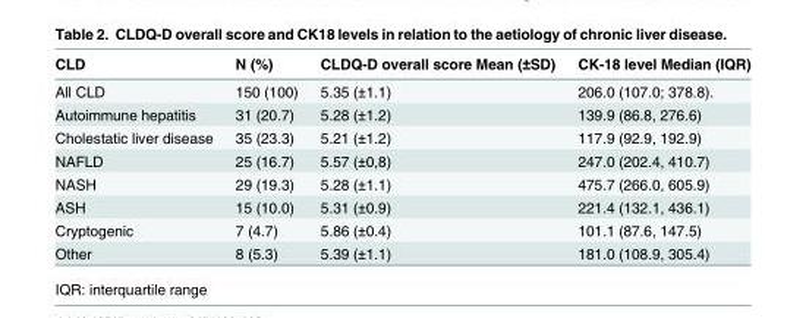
<table><thead><tr><td>CLD</td><td>N (%)</td><td>CLDQ-D overall score Mean (±SD)</td><td>CK-18 level Median (IQR)</td></tr></thead><tbody><tr><td>All CLD</td><td>150 (100)</td><td>5.35 (±1.1)</td><td>206.0 (107.0; 378.8).</td></tr><tr><td>Autoimmune hepatitis</td><td>31 (20.7)</td><td>5.28 (±1.2)</td><td>139.9 (86.8, 276.6)</td></tr><tr><td>Cholestatic liver disease</td><td>35 (23.3)</td><td>5.21 (±1.2)</td><td>117.9 (92.9, 192.9)</td></tr><tr><td>NAFLD</td><td>25 (16.7)</td><td>5.57 (±0,8)</td><td>247.0 (202.4, 410.7)</td></tr><tr><td>NASH</td><td>29 (19.3)</td><td>5.28 (±1.1)</td><td>475.7 (266.0, 605.9)</td></tr><tr><td>ASH</td><td>15 (10.0)</td><td>5.31 (±0.9)</td><td>221.4 (132.1, 436.1)</td></tr><tr><td>Cryptogenic</td><td>7 (4.7)</td><td>5.86 (±0.4)</td><td>101.1 (87.6, 147.5)</td></tr><tr><td>Other</td><td>8 (5.3)</td><td>5.39 (±1.1)</td><td>181.0 (108.9, 305.4)</td></tr></tbody></table>